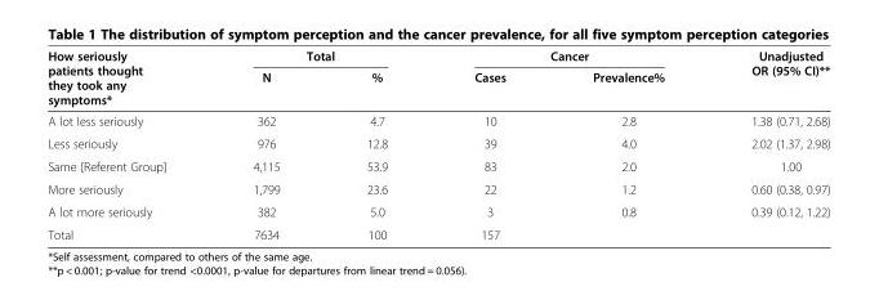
<table><thead><tr><td rowspan="2">How seriously patients thought they took any symptoms*</td><td colspan="2">Total</td><td colspan="2">Cancer</td><td rowspan="2">Unadjusted OR (95% CI)**</td></tr><tr><td>N</td><td>%</td><td>Cases</td><td>Prevalence%</td></tr></thead><tbody><tr><td>A lot less seriously</td><td>362</td><td>4.7</td><td>10</td><td>2.8</td><td>1.38 (0.71, 2.68)</td></tr><tr><td>Less seriously</td><td>976</td><td>12.8</td><td>39</td><td>4.0</td><td>2.02 (1.37, 2.98)</td></tr><tr><td>Same [Referent Group]</td><td>4,115</td><td>53.9</td><td>83</td><td>2.0</td><td>1.00</td></tr><tr><td>More seriously</td><td>1,799</td><td>23.6</td><td>22</td><td>1.2</td><td>0.60 (0.38, 0.97)</td></tr><tr><td>A lot more seriously</td><td>382</td><td>5.0</td><td>3</td><td>0.8</td><td>0.39 (0.12, 1.22)</td></tr><tr><td>Total</td><td>7634</td><td>100</td><td>157</td><td></td><td></td></tr></tbody></table>